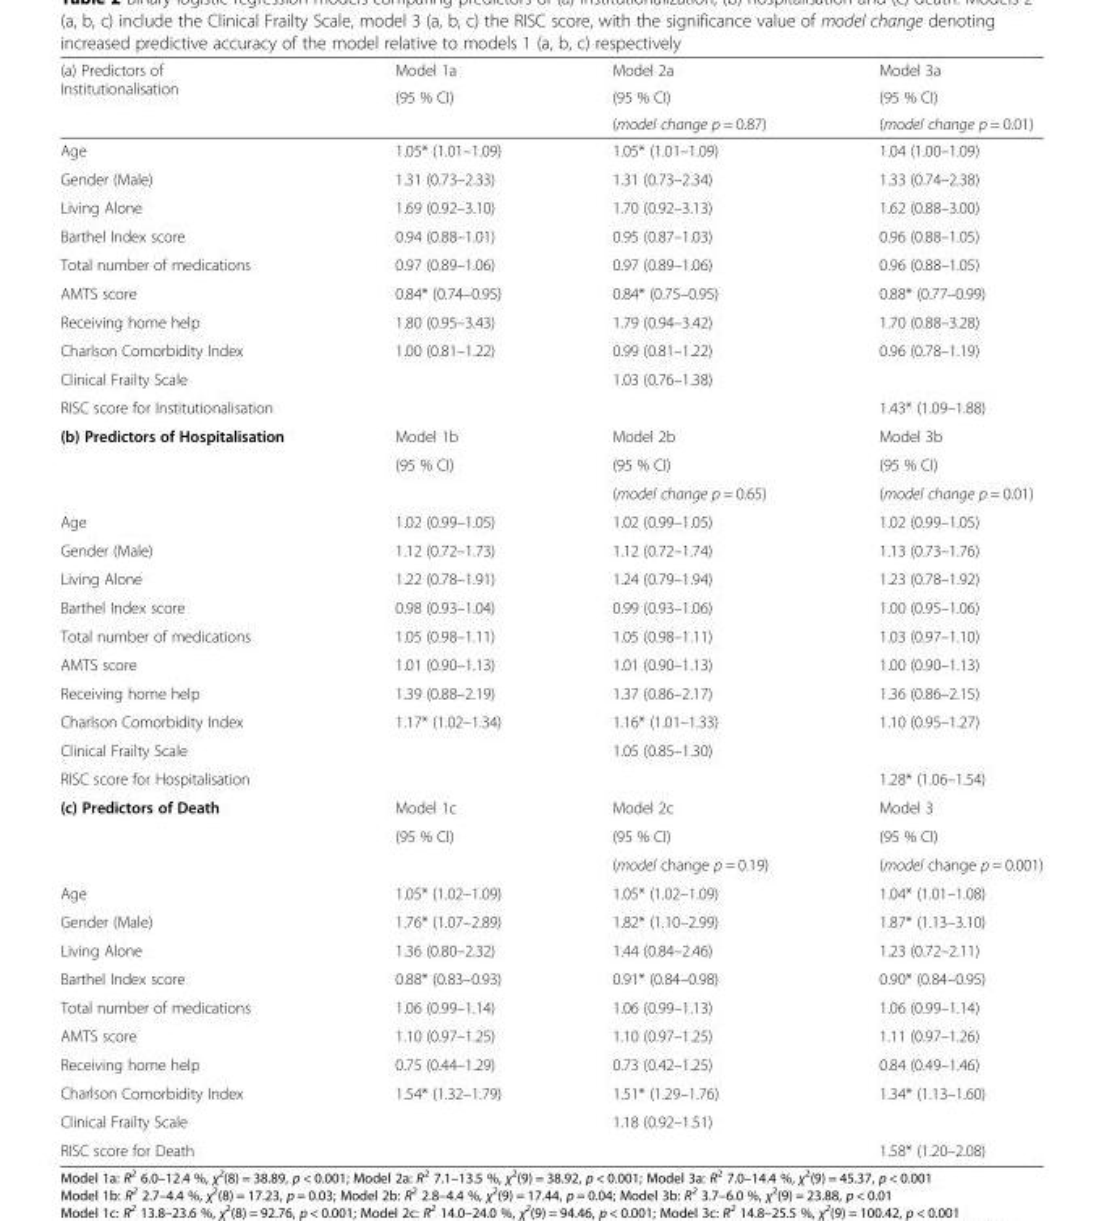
<table><thead><tr><td rowspan="3">(a) Predictors of Institutionalisation</td><td rowspan="3">Model 1a (95 % CI)</td><td rowspan="3">Model 2a (95 % CI) (model change p = 0.87)</td><td rowspan="3">Model 3a (95 % CI) (model change p = 0.01)</td></tr><tr></tr><tr></tr></thead><tbody><tr><td>Age</td><td>1.05* (1.01–1.09)</td><td>1.05* (1.01–1.09)</td><td>1.04 (1.00–1.09)</td></tr><tr><td>Gender (Male)</td><td>1.31 (0.73–2.33)</td><td>1.31 (0.73–2.34)</td><td>1.33 (0.74–2.38)</td></tr><tr><td>Living Alone</td><td>1.69 (0.92–3.10)</td><td>1.70 (0.92–3.13)</td><td>1.62 (0.88–3.00)</td></tr><tr><td>Barthel Index score</td><td>0.94 (0.88–1.01)</td><td>0.95 (0.87–1.03)</td><td>0.96 (0.88–1.05)</td></tr><tr><td>Total number of medications</td><td>0.97 (0.89–1.06)</td><td>0.97 (0.89–1.06)</td><td>0.96 (0.88–1.05)</td></tr><tr><td>AMTS score</td><td>0.84* (0.74–0.95)</td><td>0.84* (0.75–0.95)</td><td>0.88* (0.77–0.99)</td></tr><tr><td>Receiving home help</td><td>1.80 (0.95–3.43)</td><td>1.79 (0.94–3.42)</td><td>1.70 (0.88–3.28)</td></tr><tr><td>Charlson Comorbidity Index</td><td>1.00 (0.81–1.22)</td><td>0.99 (0.81–1.22)</td><td>0.96 (0.78–1.19)</td></tr><tr><td>Clinical Frailty Scale</td><td></td><td>1.03 (0.76–1.38)</td><td></td></tr><tr><td>RISC score for Institutionalisation</td><td></td><td></td><td>1.43* (1.09–1.88)</td></tr><tr><td rowspan="3">(b) Predictors of Hospitalisation</td><td>Model 1b</td><td>Model 2b</td><td>Model 3b</td></tr><tr><td rowspan="2">(95 % CI)</td><td>(95 % CI)</td><td>(95 % CI)</td></tr><tr><td>(model change p = 0.65)</td><td>(model change p = 0.01)</td></tr><tr><td>Age</td><td>1.02 (0.99–1.05)</td><td>1.02 (0.99–1.05)</td><td>1.02 (0.99–1.05)</td></tr><tr><td>Gender (Male)</td><td>1.12 (0.72–1.73)</td><td>1.12 (0.72–1.74)</td><td>1.13 (0.73–1.76)</td></tr><tr><td>Living Alone</td><td>1.22 (0.78–1.91)</td><td>1.24 (0.79–1.94)</td><td>1.23 (0.78–1.92)</td></tr><tr><td>Barthel Index score</td><td>0.98 (0.93–1.04)</td><td>0.99 (0.93–1.06)</td><td>1.00 (0.95–1.06)</td></tr><tr><td>Total number of medications</td><td>1.05 (0.98–1.11)</td><td>1.05 (0.98–1.11)</td><td>1.03 (0.97–1.10)</td></tr><tr><td>AMTS score</td><td>1.01 (0.90–1.13)</td><td>1.01 (0.90–1.13)</td><td>1.00 (0.90–1.13)</td></tr><tr><td>Receiving home help</td><td>1.39 (0.88–2.19)</td><td>1.37 (0.86–2.17)</td><td>1.36 (0.86–2.15)</td></tr><tr><td>Charlson Comorbidity Index</td><td>1.17* (1.02–1.34)</td><td>1.16* (1.01–1.33)</td><td>1.10 (0.95–1.27)</td></tr><tr><td>Clinical Frailty Scale</td><td></td><td>1.05 (0.85–1.30)</td><td></td></tr><tr><td>RISC score for Hospitalisation</td><td></td><td></td><td>1.28* (1.06–1.54)</td></tr><tr><td rowspan="3">(c) Predictors of Death</td><td>Model 1c</td><td>Model 2c</td><td>Model 3</td></tr><tr><td rowspan="2">(95 % CI)</td><td>(95 % CI)</td><td>(95 % CI)</td></tr><tr><td>(model change p = 0.19)</td><td>(model change p = 0.001)</td></tr><tr><td>Age</td><td>1.05* (1.02–1.09)</td><td>1.05* (1.02–1.09)</td><td>1.04* (1.01–1.08)</td></tr><tr><td>Gender (Male)</td><td>1.76* (1.07–2.89)</td><td>1.82* (1.10–2.99)</td><td>1.87* (1.13–3.10)</td></tr><tr><td>Living Alone</td><td>1.36 (0.80–2.32)</td><td>1.44 (0.84–2.46)</td><td>1.23 (0.72–2.11)</td></tr><tr><td>Barthel Index score</td><td>0.88* (0.83–0.93)</td><td>0.91* (0.84–0.98)</td><td>0.90* (0.84–0.95)</td></tr><tr><td>Total number of medications</td><td>1.06 (0.99–1.14)</td><td>1.06 (0.99–1.13)</td><td>1.06 (0.99–1.14)</td></tr><tr><td>AMTS score</td><td>1.10 (0.97–1.25)</td><td>1.10 (0.97–1.25)</td><td>1.11 (0.97–1.26)</td></tr><tr><td>Receiving home help</td><td>0.75 (0.44–1.29)</td><td>0.73 (0.42–1.25)</td><td>0.84 (0.49–1.46)</td></tr><tr><td>Charlson Comorbidity Index</td><td>1.54* (1.32–1.79)</td><td>1.51* (1.29–1.76)</td><td>1.34* (1.13–1.60)</td></tr><tr><td>Clinical Frailty Scale</td><td></td><td>1.18 (0.92–1.51)</td><td></td></tr><tr><td>RISC score for Death</td><td></td><td></td><td>1.58* (1.20–2.08)</td></tr></tbody></table>